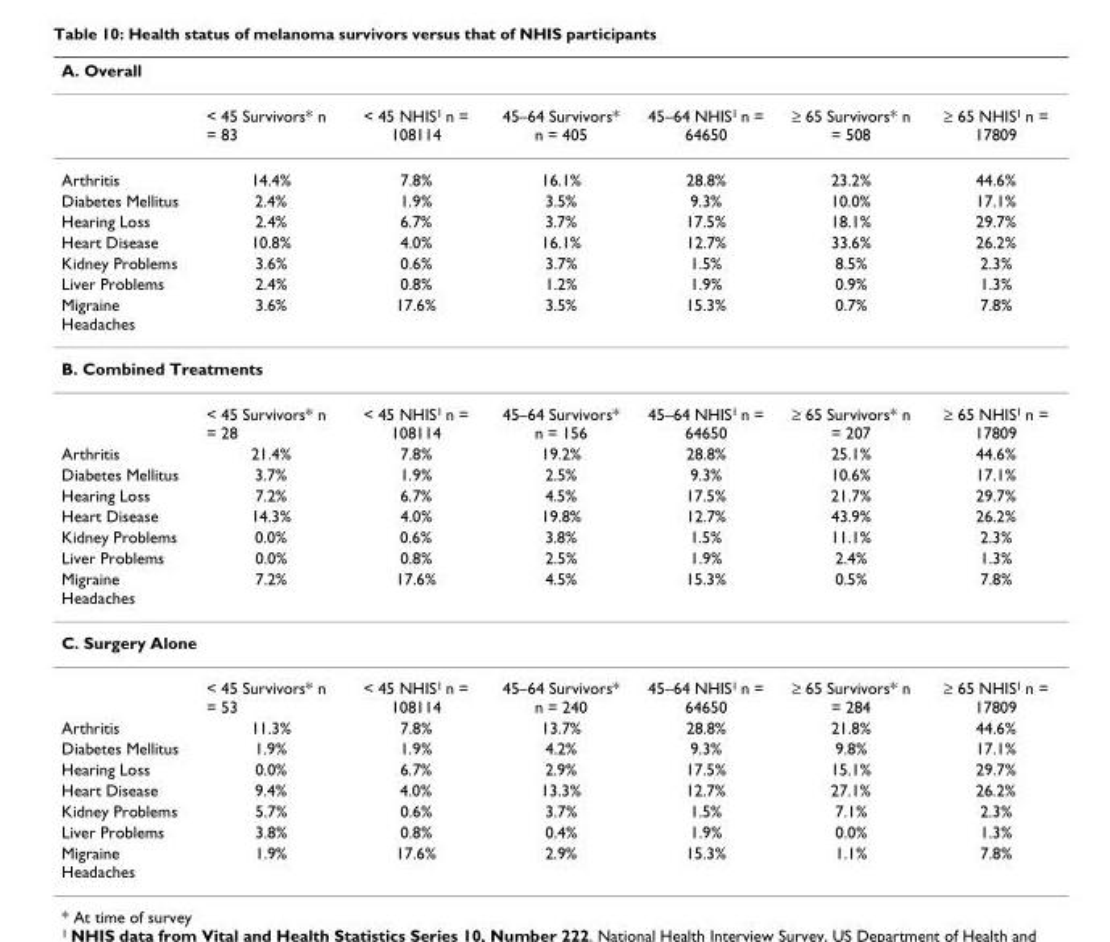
<table><thead><tr><td colspan="7">A. Overall</td></tr><tr><td></td><td>&lt; 45 Survivors* n = 83</td><td>&lt; 45 NHIS1 n = 108114</td><td>45–64 Survivors* n = 405</td><td>45–64 NHIS1 n = 64650</td><td>≥ 65 Survivors* n = 508</td><td>≥ 65 NHIS1 n = 17809</td></tr></thead><tbody><tr><td>Arthritis</td><td>14.4%</td><td>7.8%</td><td>16.1%</td><td>28.8%</td><td>23.2%</td><td>44.6%</td></tr><tr><td>Diabetes Mellitus</td><td>2.4%</td><td>1.9%</td><td>3.5%</td><td>9.3%</td><td>10.0%</td><td>17.1%</td></tr><tr><td>Hearing Loss</td><td>2.4%</td><td>6.7%</td><td>3.7%</td><td>17.5%</td><td>18.1%</td><td>29.7%</td></tr><tr><td>Heart Disease</td><td>10.8%</td><td>4.0%</td><td>16.1%</td><td>12.7%</td><td>33.6%</td><td>26.2%</td></tr><tr><td>Kidney Problems</td><td>3.6%</td><td>0.6%</td><td>3.7%</td><td>1.5%</td><td>8.5%</td><td>2.3%</td></tr><tr><td>Liver Problems</td><td>2.4%</td><td>0.8%</td><td>1.2%</td><td>1.9%</td><td>0.9%</td><td>1.3%</td></tr><tr><td>Migraine Headaches</td><td>3.6%</td><td>17.6%</td><td>3.5%</td><td>15.3%</td><td>0.7%</td><td>7.8%</td></tr><tr><td colspan="7">B. Combined Treatments</td></tr><tr><td></td><td>&lt; 45 Survivors* n = 28</td><td>&lt; 45 NHIS1 n = 108114</td><td>45–64 Survivors* n = 156</td><td>45–64 NHIS1 n = 64650</td><td>≥ 65 Survivors* n = 207</td><td>≥ 65 NHIS1 n = 17809</td></tr><tr><td>Arthritis</td><td>21.4%</td><td>7.8%</td><td>19.2%</td><td>28.8%</td><td>25.1%</td><td>44.6%</td></tr><tr><td>Diabetes Mellitus</td><td>3.7%</td><td>1.9%</td><td>2.5%</td><td>9.3%</td><td>10.6%</td><td>17.1%</td></tr><tr><td>Hearing Loss</td><td>7.2%</td><td>6.7%</td><td>4.5%</td><td>17.5%</td><td>21.7%</td><td>29.7%</td></tr><tr><td>Heart Disease</td><td>14.3%</td><td>4.0%</td><td>19.8%</td><td>12.7%</td><td>43.9%</td><td>26.2%</td></tr><tr><td>Kidney Problems</td><td>0.0%</td><td>0.6%</td><td>3.8%</td><td>1.5%</td><td>11.1%</td><td>2.3%</td></tr><tr><td>Liver Problems</td><td>0.0%</td><td>0.8%</td><td>2.5%</td><td>1.9%</td><td>2.4%</td><td>1.3%</td></tr><tr><td>Migraine Headaches</td><td>7.2%</td><td>17.6%</td><td>4.5%</td><td>15.3%</td><td>0.5%</td><td>7.8%</td></tr><tr><td colspan="7">C. Surgery Alone</td></tr><tr><td></td><td>&lt; 45 Survivors* n = 53</td><td>&lt; 45 NHIS1 n = 108114</td><td>45–64 Survivors* n = 240</td><td>45–64 NHIS1 n = 64650</td><td>≥ 65 Survivors* n = 284</td><td>≥ 65 NHIS1 n = 17809</td></tr><tr><td>Arthritis</td><td>11.3%</td><td>7.8%</td><td>13.7%</td><td>28.8%</td><td>21.8%</td><td>44.6%</td></tr><tr><td>Diabetes Mellitus</td><td>1.9%</td><td>1.9%</td><td>4.2%</td><td>9.3%</td><td>9.8%</td><td>17.1%</td></tr><tr><td>Hearing Loss</td><td>0.0%</td><td>6.7%</td><td>2.9%</td><td>17.5%</td><td>15.1%</td><td>29.7%</td></tr><tr><td>Heart Disease</td><td>9.4%</td><td>4.0%</td><td>13.3%</td><td>12.7%</td><td>27.1%</td><td>26.2%</td></tr><tr><td>Kidney Problems</td><td>5.7%</td><td>0.6%</td><td>3.7%</td><td>1.5%</td><td>7.1%</td><td>2.3%</td></tr><tr><td>Liver Problems</td><td>3.8%</td><td>0.8%</td><td>0.4%</td><td>1.9%</td><td>0.0%</td><td>1.3%</td></tr><tr><td>Migraine Headaches</td><td>1.9%</td><td>17.6%</td><td>2.9%</td><td>15.3%</td><td>1.1%</td><td>7.8%</td></tr></tbody></table>